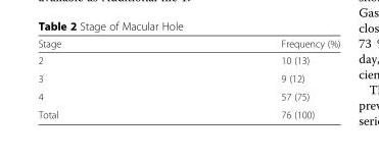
<table><thead><tr><td>Stage</td><td>Frequency (%)</td></tr></thead><tbody><tr><td>2</td><td>10 (13)</td></tr><tr><td>3</td><td>9 (12)</td></tr><tr><td>4</td><td>57 (75)</td></tr><tr><td>Total</td><td>76 (100)</td></tr></tbody></table>